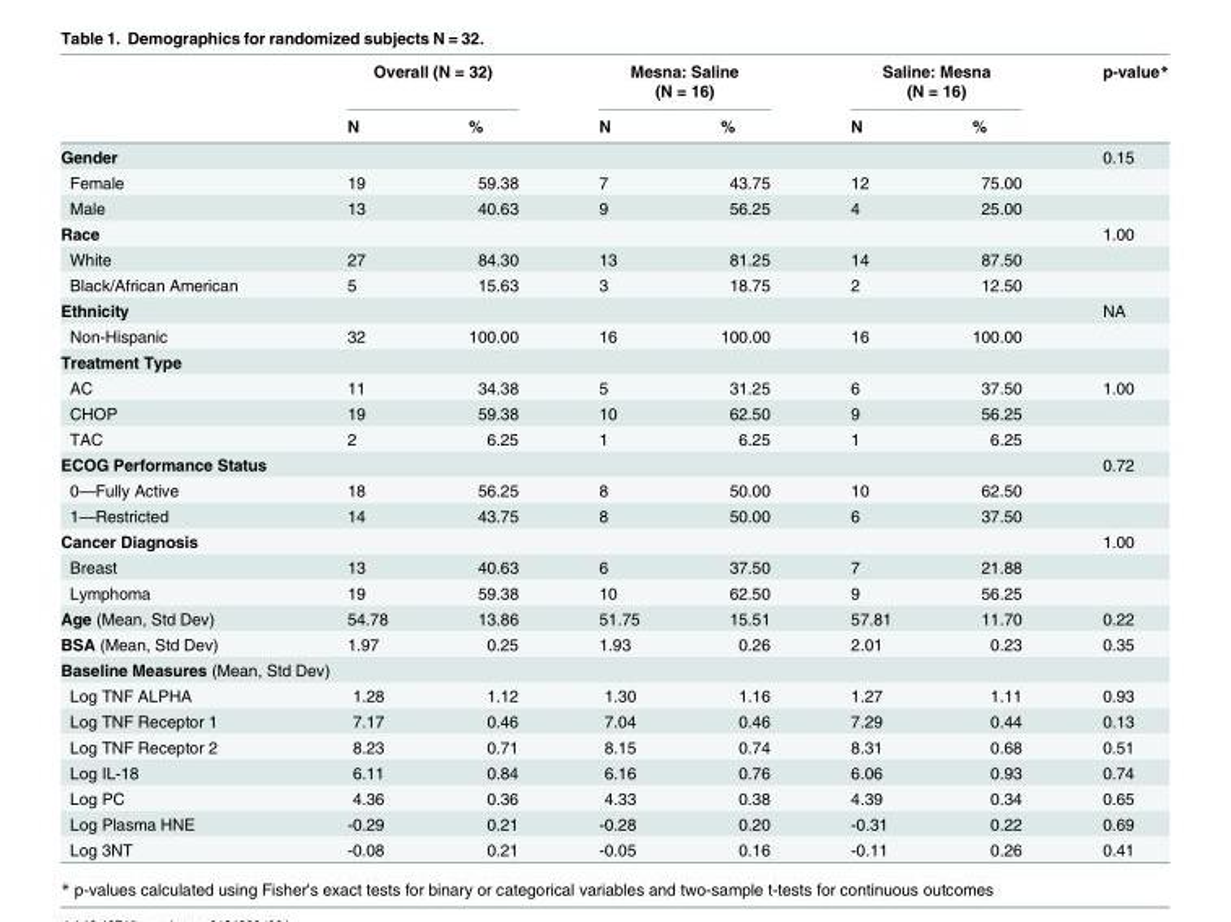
<table><thead><tr><td rowspan="2"></td><td colspan="2">Overall (N = 32)</td><td colspan="2">Mesna: Saline (N = 16)</td><td colspan="2">Saline: Mesna (N = 16)</td><td rowspan="2">p-value*</td></tr><tr><td>N</td><td>%</td><td>N</td><td>%</td><td>N</td><td>%</td></tr></thead><tbody><tr><td>Gender</td><td></td><td></td><td></td><td></td><td></td><td></td><td>0.15</td></tr><tr><td>Female</td><td>19</td><td>59.38</td><td>7</td><td>43.75</td><td>12</td><td>75.00</td><td></td></tr><tr><td>Male</td><td>13</td><td>40.63</td><td>9</td><td>56.25</td><td>4</td><td>25.00</td><td></td></tr><tr><td>Race</td><td></td><td></td><td></td><td></td><td></td><td></td><td>1.00</td></tr><tr><td>White</td><td>27</td><td>84.30</td><td>13</td><td>81.25</td><td>14</td><td>87.50</td><td></td></tr><tr><td>Black/African American</td><td>5</td><td>15.63</td><td>3</td><td>18.75</td><td>2</td><td>12.50</td><td></td></tr><tr><td>Ethnicity</td><td></td><td></td><td></td><td></td><td></td><td></td><td>NA</td></tr><tr><td>Non-Hispanic</td><td>32</td><td>100.00</td><td>16</td><td>100.00</td><td>16</td><td>100.00</td><td></td></tr><tr><td colspan="8">Treatment Type</td></tr><tr><td>AC</td><td>11</td><td>34.38</td><td>5</td><td>31.25</td><td>6</td><td>37.50</td><td>1.00</td></tr><tr><td>CHOP</td><td>19</td><td>59.38</td><td>10</td><td>62.50</td><td>9</td><td>56.25</td><td></td></tr><tr><td>TAC</td><td>2</td><td>6.25</td><td>1</td><td>6.25</td><td>1</td><td>6.25</td><td></td></tr><tr><td>ECOG Performance Status</td><td></td><td></td><td></td><td></td><td></td><td></td><td>0.72</td></tr><tr><td>0—Fully Active</td><td>18</td><td>56.25</td><td>8</td><td>50.00</td><td>10</td><td>62.50</td><td></td></tr><tr><td>1—Restricted</td><td>14</td><td>43.75</td><td>8</td><td>50.00</td><td>6</td><td>37.50</td><td></td></tr><tr><td>Cancer Diagnosis</td><td></td><td></td><td></td><td></td><td></td><td></td><td>1.00</td></tr><tr><td>Breast</td><td>13</td><td>40.63</td><td>6</td><td>37.50</td><td>7</td><td>21.88</td><td></td></tr><tr><td>Lymphoma</td><td>19</td><td>59.38</td><td>10</td><td>62.50</td><td>9</td><td>56.25</td><td></td></tr><tr><td>Age (Mean, Std Dev)</td><td>54.78</td><td>13.86</td><td>51.75</td><td>15.51</td><td>57.81</td><td>11.70</td><td>0.22</td></tr><tr><td>BSA (Mean, Std Dev)</td><td>1.97</td><td>0.25</td><td>1.93</td><td>0.26</td><td>2.01</td><td>0.23</td><td>0.35</td></tr><tr><td colspan="8">Baseline Measures (Mean, Std Dev)</td></tr><tr><td>Log TNF ALPHA</td><td>1.28</td><td>1.12</td><td>1.30</td><td>1.16</td><td>1.27</td><td>1.11</td><td>0.93</td></tr><tr><td>Log TNF Receptor 1</td><td>7.17</td><td>0.46</td><td>7.04</td><td>0.46</td><td>7.29</td><td>0.44</td><td>0.13</td></tr><tr><td>Log TNF Receptor 2</td><td>8.23</td><td>0.71</td><td>8.15</td><td>0.74</td><td>8.31</td><td>0.68</td><td>0.51</td></tr><tr><td>Log IL-18</td><td>6.11</td><td>0.84</td><td>6.16</td><td>0.76</td><td>6.06</td><td>0.93</td><td>0.74</td></tr><tr><td>Log PC</td><td>4.36</td><td>0.36</td><td>4.33</td><td>0.38</td><td>4.39</td><td>0.34</td><td>0.65</td></tr><tr><td>Log Plasma HNE</td><td>-0.29</td><td>0.21</td><td>-0.28</td><td>0.20</td><td>-0.31</td><td>0.22</td><td>0.69</td></tr><tr><td>Log 3NT</td><td>-0.08</td><td>0.21</td><td>-0.05</td><td>0.16</td><td>-0.11</td><td>0.26</td><td>0.41</td></tr></tbody></table>